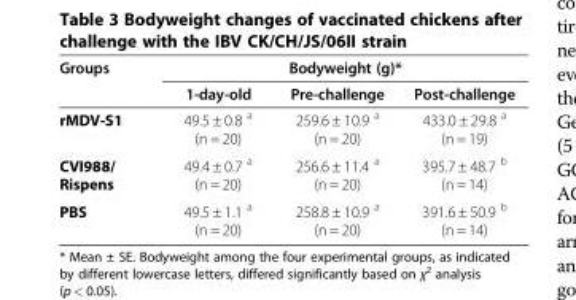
<table><thead><tr><td rowspan="2">Groups</td><td colspan="3">Bodyweight (g)*</td></tr><tr><td>1-day-old</td><td>Pre-challenge</td><td>Post-challenge</td></tr></thead><tbody><tr><td>rMDV-S1</td><td>49.5 ± 0.8 <sup>a</sup> (n = 20)</td><td>259.6 ± 10.9 <sup>a</sup> (n = 20)</td><td>433.0 ± 29.8 <sup>a</sup> (n = 19)</td></tr><tr><td>CVI988/ Rispens</td><td>49.4 ± 0.7 <sup>a</sup> (n = 20)</td><td>256.6 ± 11.4 <sup>a</sup> (n = 20)</td><td>395.7 ± 48.7 <sup>b</sup> (n = 14)</td></tr><tr><td>PBS</td><td>49.5 ± 1.1 <sup>a</sup> (n = 20)</td><td>258.8 ± 10.9 <sup>a</sup> (n = 20)</td><td>391.6 ± 50.9 <sup>b</sup> (n = 14)</td></tr></tbody></table>